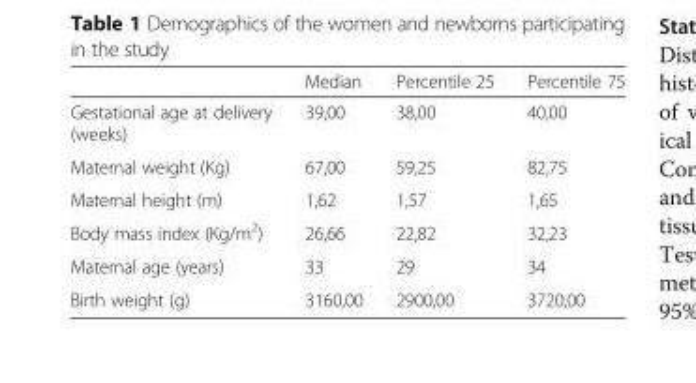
<table><thead><tr><td></td><td>Median</td><td>Percentile 25</td><td>Percentile 75</td></tr></thead><tbody><tr><td>Gestational age at delivery (weeks)</td><td>39,00</td><td>38,00</td><td>40,00</td></tr><tr><td>Maternal weight (Kg)</td><td>67,00</td><td>59,25</td><td>82,75</td></tr><tr><td>Maternal height (m)</td><td>1,62</td><td>1,57</td><td>1,65</td></tr><tr><td>Body mass index (Kg/m<sup>2</sup>)</td><td>26,66</td><td>22,82</td><td>32,23</td></tr><tr><td>Maternal age (years)</td><td>33</td><td>29</td><td>34</td></tr><tr><td>Birth weight (g)</td><td>3160,00</td><td>2900,00</td><td>3720,00</td></tr></tbody></table>